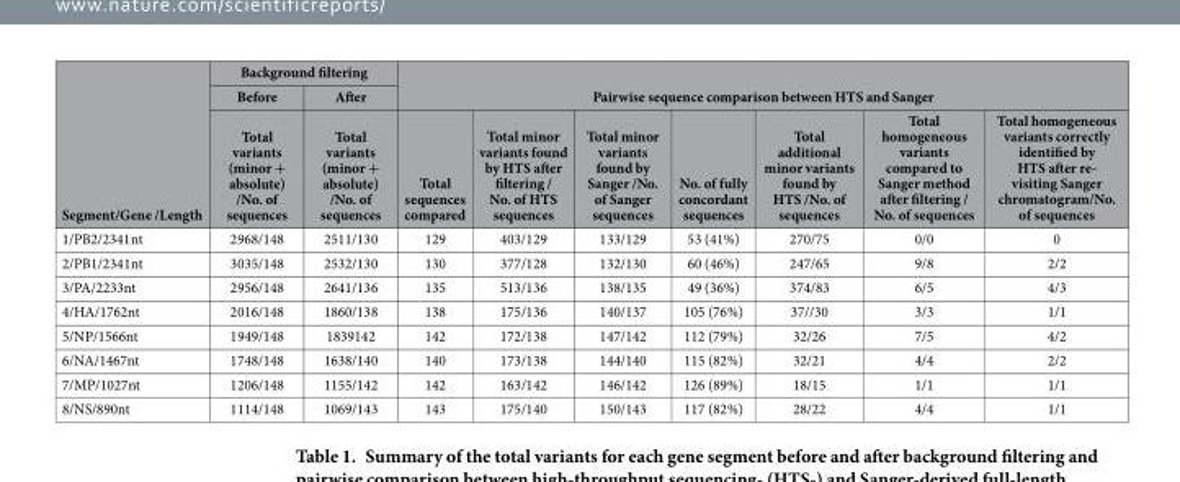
<table><thead><tr><td rowspan="3">Segment/Gene /Length</td><td colspan="2">Background filtering</td><td></td><td></td><td></td><td></td><td></td><td></td><td></td></tr><tr><td rowspan="2">Before Total variants (minor + absolute) /No. of sequences</td><td rowspan="2">After Total variants (minor + absolute) /No. of sequences</td><td colspan="7">Pairwise sequence comparison between HTS and Sanger</td></tr><tr><td>Total sequences compared</td><td>Total minor variants found by HTS after filtering / No. of HTS sequences</td><td>Total minor variants found by Sanger /No. of Sanger sequences</td><td>No. of fully concordant sequences</td><td>Total additional minor variants found by HTS /No. of sequences</td><td>Total homogeneous variants compared to Sanger method after filtering / No. of sequences</td><td>Total homogeneous variants correctly identified by HTS after re- visiting Sanger chromatogram/No. of sequences</td></tr></thead><tbody><tr><td>1/PB2/2341nt</td><td>2968/148</td><td>2511/130</td><td>129</td><td>403/129</td><td>133/129</td><td>53 (41%)</td><td>270/75</td><td>0/0</td><td>0</td></tr><tr><td>2/PB1/2341nt</td><td>3035/148</td><td>2532/130</td><td>130</td><td>377/128</td><td>132/130</td><td>60 (46%)</td><td>247/65</td><td>9/8</td><td>2/2</td></tr><tr><td>3/PA/2233nt</td><td>2956/148</td><td>2641/136</td><td>135</td><td>513/136</td><td>138/135</td><td>49 (36%)</td><td>374/83</td><td>6/5</td><td>4/3</td></tr><tr><td>4/HA/1762nt</td><td>2016/148</td><td>1860/138</td><td>138</td><td>175/136</td><td>140/137</td><td>105 (76%)</td><td>37//30</td><td>3/3</td><td>1/1</td></tr><tr><td>5/NP/1566nt</td><td>1949/148</td><td>1839142</td><td>142</td><td>172/138</td><td>147/142</td><td>112 (79%)</td><td>32/26</td><td>7/5</td><td>4/2</td></tr><tr><td>6/NA/1467nt</td><td>1748/148</td><td>1638/140</td><td>140</td><td>173/138</td><td>144/140</td><td>115 (82%)</td><td>32/21</td><td>4/4</td><td>2/2</td></tr><tr><td>7/MP/1027nt</td><td>1206/148</td><td>1155/142</td><td>142</td><td>163/142</td><td>146/142</td><td>126 (89%)</td><td>18/15</td><td>1/1</td><td>1/1</td></tr><tr><td>8/NS/890nt</td><td>1114/148</td><td>1069/143</td><td>143</td><td>175/140</td><td>150/143</td><td>117 (82%)</td><td>28/22</td><td>4/4</td><td>1/1</td></tr></tbody></table>